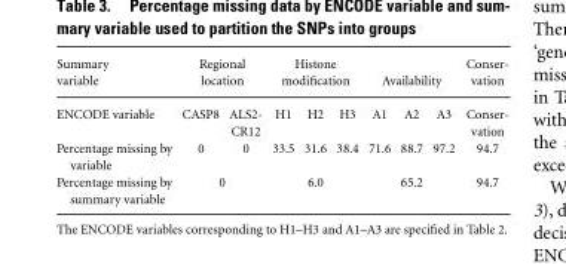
<table><thead><tr><td rowspan="2">Summary variable ENCODE variable</td><td colspan="2">Regional location</td><td colspan="3">Histone modification</td><td colspan="3">Availability</td><td rowspan="2">Conser- vation Conser- vation</td></tr><tr><td>CASP8</td><td>ALS2- CR12</td><td>H1</td><td>H2</td><td>H3</td><td>A1</td><td>A2</td><td>A3</td></tr></thead><tbody><tr><td>Percentage missing by variable</td><td>0</td><td>0</td><td>33.5</td><td>31.6</td><td>38.4</td><td>71.6</td><td>88.7</td><td>97.2</td><td>94.7</td></tr><tr><td>Percentage missing by summary variable</td><td colspan="2">0</td><td colspan="3">6.0</td><td colspan="3">65.2</td><td>94.7</td></tr></tbody></table>